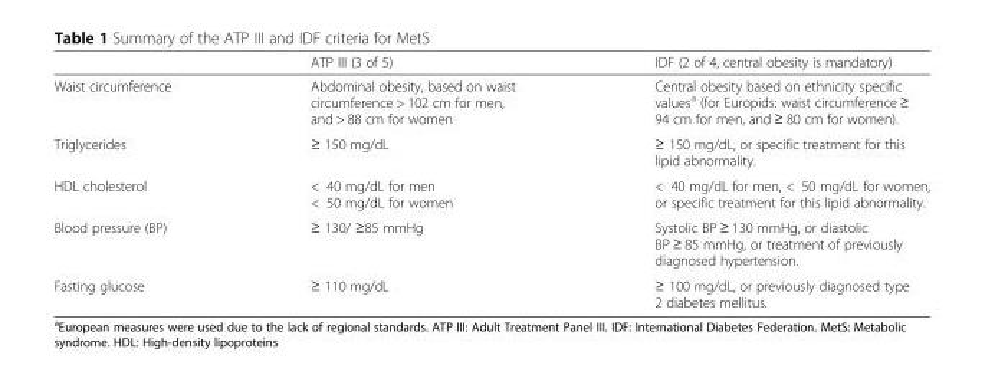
<table><thead><tr><td></td><td>ATP III (3 of 5)</td><td>IDF (2 of 4, central obesity is mandatory)</td></tr></thead><tbody><tr><td>Waist circumference</td><td>Abdominal obesity, based on waist circumference &gt; 102 cm for men, and &gt; 88 cm for women</td><td>Central obesity based on ethnicity specific values<sup>a</sup> (for Europids: waist circumference ≥ 94 cm for men, and ≥ 80 cm for women).</td></tr><tr><td>Triglycerides</td><td>≥ 150 mg/dL</td><td>≥ 150 mg/dL, or specific treatment for this lipid abnormality.</td></tr><tr><td>HDL cholesterol</td><td>&lt; 40 mg/dL for men &lt; 50 mg/dL for women</td><td>&lt; 40 mg/dL for men, &lt; 50 mg/dL for women, or specific treatment for this lipid abnormality.</td></tr><tr><td>Blood pressure (BP)</td><td>≥ 130/ ≥85 mmHg</td><td>Systolic BP ≥ 130 mmHg, or diastolic BP ≥ 85 mmHg, or treatment of previously diagnosed hypertension.</td></tr><tr><td>Fasting glucose</td><td>≥ 110 mg/dL</td><td>≥ 100 mg/dL, or previously diagnosed type 2 diabetes mellitus.</td></tr></tbody></table>